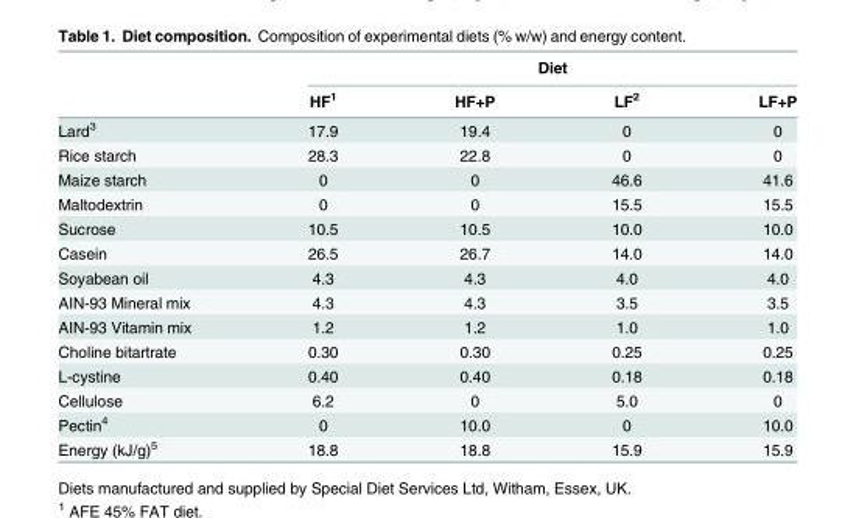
<table><thead><tr><td rowspan="2"></td><td colspan="4">Diet</td></tr><tr><td>HF<sup>1</sup></td><td>HF+P</td><td>LF<sup>2</sup></td><td>LF+P</td></tr></thead><tbody><tr><td>Lard<sup>3</sup></td><td>17.9</td><td>19.4</td><td>0</td><td>0</td></tr><tr><td>Rice starch</td><td>28.3</td><td>22.8</td><td>0</td><td>0</td></tr><tr><td>Maize starch</td><td>0</td><td>0</td><td>46.6</td><td>41.6</td></tr><tr><td>Maltodextrin</td><td>0</td><td>0</td><td>15.5</td><td>15.5</td></tr><tr><td>Sucrose</td><td>10.5</td><td>10.5</td><td>10.0</td><td>10.0</td></tr><tr><td>Casein</td><td>26.5</td><td>26.7</td><td>14.0</td><td>14.0</td></tr><tr><td>Soyabean oil</td><td>4.3</td><td>4.3</td><td>4.0</td><td>4.0</td></tr><tr><td>AIN-93 Mineral mix</td><td>4.3</td><td>4.3</td><td>3.5</td><td>3.5</td></tr><tr><td>AIN-93 Vitamin mix</td><td>1.2</td><td>1.2</td><td>1.0</td><td>1.0</td></tr><tr><td>Choline bitartrate</td><td>0.30</td><td>0.30</td><td>0.25</td><td>0.25</td></tr><tr><td>L-cystine</td><td>0.40</td><td>0.40</td><td>0.18</td><td>0.18</td></tr><tr><td>Cellulose</td><td>6.2</td><td>0</td><td>5.0</td><td>0</td></tr><tr><td>Pectin<sup>4</sup></td><td>0</td><td>10.0</td><td>0</td><td>10.0</td></tr><tr><td>Energy (kJ/g)<sup>5</sup></td><td>18.8</td><td>18.8</td><td>15.9</td><td>15.9</td></tr></tbody></table>